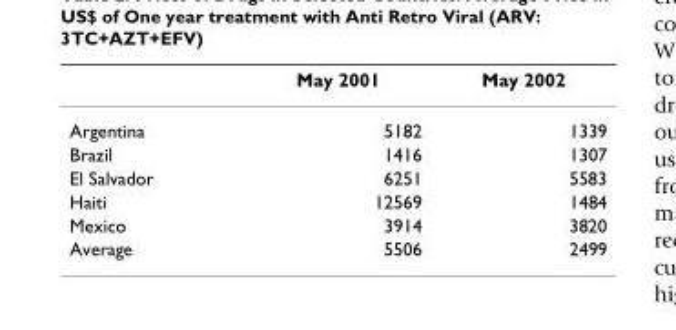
<table><thead><tr><td></td><td>May 2001</td><td>May 2002</td></tr></thead><tbody><tr><td>Argentina</td><td>5182</td><td>1339</td></tr><tr><td>Brazil</td><td>1416</td><td>1307</td></tr><tr><td>El Salvador</td><td>6251</td><td>5583</td></tr><tr><td>Haiti</td><td>12569</td><td>1484</td></tr><tr><td>Mexico</td><td>3914</td><td>3820</td></tr><tr><td>Average</td><td>5506</td><td>2499</td></tr></tbody></table>